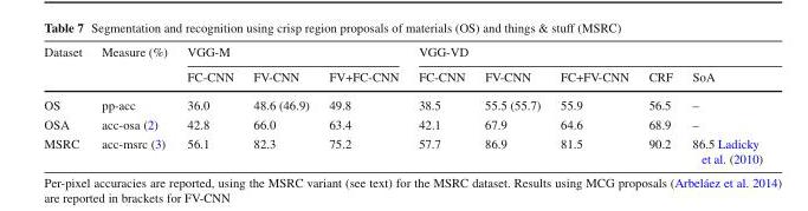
<table><thead><tr><td rowspan="2">Dataset</td><td rowspan="2">Measure (%)</td><td colspan="3">VGG-M</td><td colspan="4">VGG-VD</td><td rowspan="2">SoA</td></tr><tr><td>FC-CNN</td><td>FV-CNN</td><td>FV+FC-CNN</td><td>FC-CNN</td><td>FV-CNN</td><td>FC+FV-CNN</td><td>CRF</td></tr></thead><tbody><tr><td>OS</td><td>pp-acc</td><td>36.0</td><td>48.6 (46.9)</td><td>49.8</td><td>38.5</td><td>55.5 (55.7)</td><td>55.9</td><td>56.5</td><td>–</td></tr><tr><td>OSA</td><td>acc-osa (2)</td><td>42.8</td><td>66.0</td><td>63.4</td><td>42.1</td><td>67.9</td><td>64.6</td><td>68.9</td><td>–</td></tr><tr><td>MSRC</td><td>acc-msrc (3)</td><td>56.1</td><td>82.3</td><td>75.2</td><td>57.7</td><td>86.9</td><td>81.5</td><td>90.2</td><td>86.5 Ladicky et al. (2010)</td></tr></tbody></table>